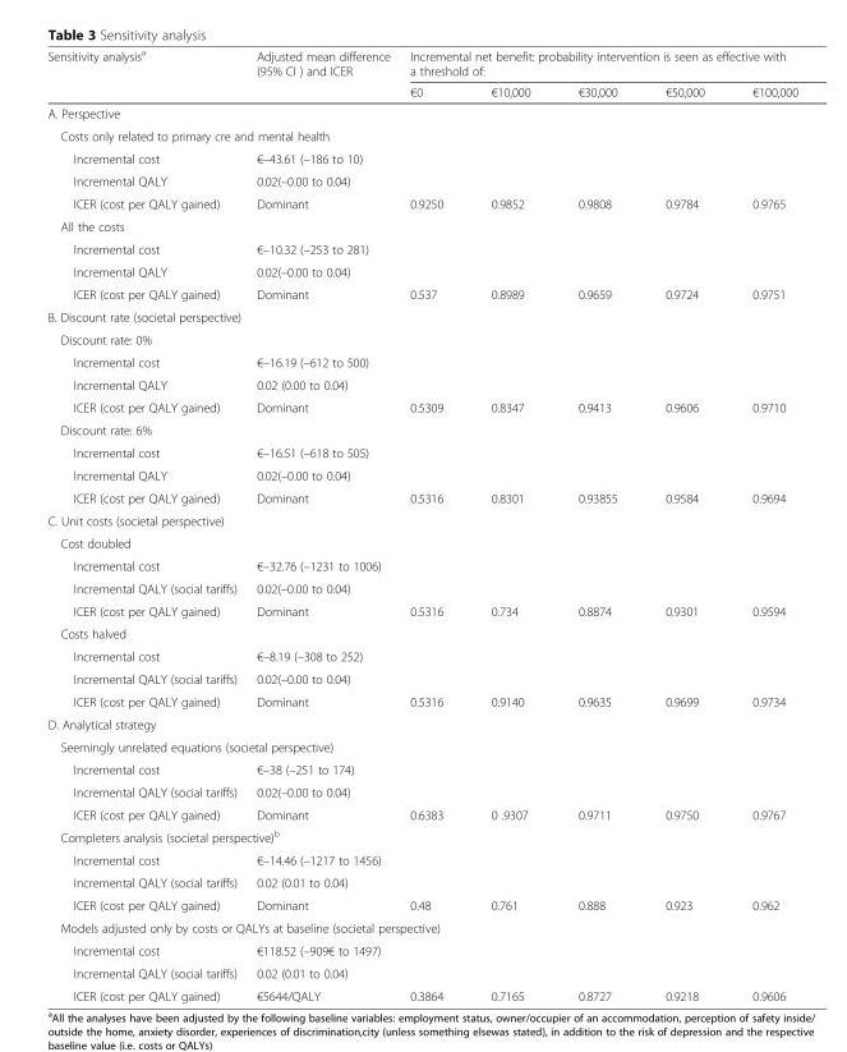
<table><thead><tr><td rowspan="2">Sensitivity analysis<sup>a</sup></td><td rowspan="2">Adjusted mean difference (95% CI ) and ICER</td><td colspan="5">Incremental net benefit: probability intervention is seen as effective with a threshold of:</td></tr><tr><td>€0</td><td>€10,000</td><td>€30,000</td><td>€50,000</td><td>€100,000</td></tr></thead><tbody><tr><td colspan="7">A. Perspective</td></tr><tr><td colspan="7">Costs only related to primary cre and mental health</td></tr><tr><td>Incremental cost</td><td>€–43.61 (–186 to 10)</td><td></td><td></td><td></td><td></td><td></td></tr><tr><td>Incremental QALY</td><td>0.02(–0.00 to 0.04)</td><td></td><td></td><td></td><td></td><td></td></tr><tr><td>ICER (cost per QALY gained)</td><td>Dominant</td><td>0.9250</td><td>0.9852</td><td>0.9808</td><td>0.9784</td><td>0.9765</td></tr><tr><td colspan="7">All the costs</td></tr><tr><td>Incremental cost</td><td>€–10.32 (–253 to 281)</td><td></td><td></td><td></td><td></td><td></td></tr><tr><td>Incremental QALY</td><td>0.02(–0.00 to 0.04)</td><td></td><td></td><td></td><td></td><td></td></tr><tr><td>ICER (cost per QALY gained)</td><td>Dominant</td><td>0.537</td><td>0.8989</td><td>0.9659</td><td>0.9724</td><td>0.9751</td></tr><tr><td colspan="7">B. Discount rate (societal perspective)</td></tr><tr><td colspan="7">Discount rate: 0%</td></tr><tr><td>Incremental cost</td><td>€–16.19 (–612 to 500)</td><td></td><td></td><td></td><td></td><td></td></tr><tr><td>Incremental QALY</td><td>0.02 (0.00 to 0.04)</td><td></td><td></td><td></td><td></td><td></td></tr><tr><td>ICER (cost per QALY gained)</td><td>Dominant</td><td>0.5309</td><td>0.8347</td><td>0.9413</td><td>0.9606</td><td>0.9710</td></tr><tr><td colspan="7">Discount rate: 6%</td></tr><tr><td>Incremental cost</td><td>€–16.51 (–618 to 505)</td><td></td><td></td><td></td><td></td><td></td></tr><tr><td>Incremental QALY</td><td>0.02(–0.00 to 0.04)</td><td></td><td></td><td></td><td></td><td></td></tr><tr><td>ICER (cost per QALY gained)</td><td>Dominant</td><td>0.5316</td><td>0.8301</td><td>0.93855</td><td>0.9584</td><td>0.9694</td></tr><tr><td colspan="7">C. Unit costs (societal perspective)</td></tr><tr><td colspan="7">Cost doubled</td></tr><tr><td>Incremental cost</td><td>€–32.76 (–1231 to 1006)</td><td></td><td></td><td></td><td></td><td></td></tr><tr><td>Incremental QALY (social tariffs)</td><td>0.02(–0.00 to 0.04)</td><td></td><td></td><td></td><td></td><td></td></tr><tr><td>ICER (cost per QALY gained)</td><td>Dominant</td><td>0.5316</td><td>0.734</td><td>0.8874</td><td>0.9301</td><td>0.9594</td></tr><tr><td colspan="7">Costs halved</td></tr><tr><td>Incremental cost</td><td>€–8.19 (–308 to 252)</td><td></td><td></td><td></td><td></td><td></td></tr><tr><td>Incremental QALY (social tariffs)</td><td>0.02(–0.00 to 0.04)</td><td></td><td></td><td></td><td></td><td></td></tr><tr><td>ICER (cost per QALY gained)</td><td>Dominant</td><td>0.5316</td><td>0.9140</td><td>0.9635</td><td>0.9699</td><td>0.9734</td></tr><tr><td colspan="7">D. Analytical strategy</td></tr><tr><td colspan="7">Seemingly unrelated equations (societal perspective)</td></tr><tr><td>Incremental cost</td><td>€–38 (–251 to 174)</td><td></td><td></td><td></td><td></td><td></td></tr><tr><td>Incremental QALY (social tariffs)</td><td>0.02(–0.00 to 0.04)</td><td></td><td></td><td></td><td></td><td></td></tr><tr><td>ICER (cost per QALY gained)</td><td>Dominant</td><td>0.6383</td><td>0 .9307</td><td>0.9711</td><td>0.9750</td><td>0.9767</td></tr><tr><td colspan="7">Completers analysis (societal perspective)<sup>b</sup></td></tr><tr><td>Incremental cost</td><td>€–14.46 (–1217 to 1456)</td><td></td><td></td><td></td><td></td><td></td></tr><tr><td>Incremental QALY (social tariffs)</td><td>0.02 (0.01 to 0.04)</td><td></td><td></td><td></td><td></td><td></td></tr><tr><td>ICER (cost per QALY gained)</td><td>Dominant</td><td>0.48</td><td>0.761</td><td>0.888</td><td>0.923</td><td>0.962</td></tr><tr><td colspan="7">Models adjusted only by costs or QALYs at baseline (societal perspective)</td></tr><tr><td>Incremental cost</td><td>€118.52 (–909€ to 1497)</td><td></td><td></td><td></td><td></td><td></td></tr><tr><td>Incremental QALY (social tariffs)</td><td>0.02 (0.01 to 0.04)</td><td></td><td></td><td></td><td></td><td></td></tr><tr><td>ICER (cost per QALY gained)</td><td>€5644/QALY</td><td>0.3864</td><td>0.7165</td><td>0.8727</td><td>0.9218</td><td>0.9606</td></tr></tbody></table>